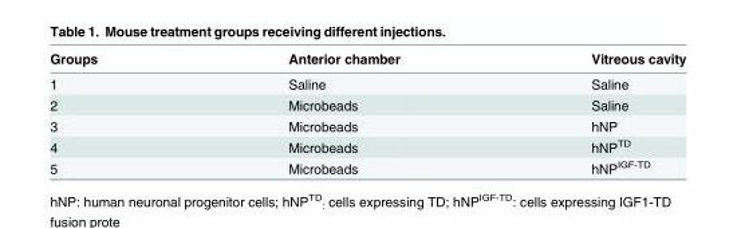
<table><thead><tr><td>Groups</td><td>Anterior chamber</td><td>Vitreous cavity</td></tr></thead><tbody><tr><td>1</td><td>Saline</td><td>Saline</td></tr><tr><td>2</td><td>Microbeads</td><td>Saline</td></tr><tr><td>3</td><td>Microbeads</td><td>hNP</td></tr><tr><td>4</td><td>Microbeads</td><td>hNP<sup>TD</sup></td></tr><tr><td>5</td><td>Microbeads</td><td>hNP<sup>IGF-TD</sup></td></tr></tbody></table>